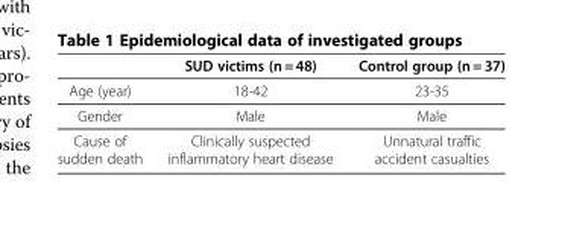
<table><thead><tr><td></td><td>SUD victims (n = 48)</td><td>Control group (n = 37)</td></tr></thead><tbody><tr><td>Age (year)</td><td>18-42</td><td>23-35</td></tr><tr><td>Gender</td><td>Male</td><td>Male</td></tr><tr><td>Cause of sudden death</td><td>Clinically suspected inflammatory heart disease</td><td>Unnatural traffic accident casualties</td></tr></tbody></table>